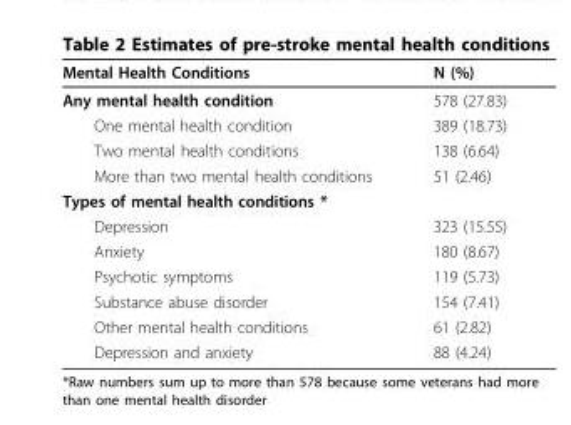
<table><thead><tr><td>Mental Health Conditions</td><td>N (%)</td></tr></thead><tbody><tr><td>Any mental health condition</td><td>578 (27.83)</td></tr><tr><td>One mental health condition</td><td>389 (18.73)</td></tr><tr><td>Two mental health conditions</td><td>138 (6.64)</td></tr><tr><td>More than two mental health conditions</td><td>51 (2.46)</td></tr><tr><td colspan="2">Types of mental health conditions *</td></tr><tr><td>Depression</td><td>323 (15.55)</td></tr><tr><td>Anxiety</td><td>180 (8.67)</td></tr><tr><td>Psychotic symptoms</td><td>119 (5.73)</td></tr><tr><td>Substance abuse disorder</td><td>154 (7.41)</td></tr><tr><td>Other mental health conditions</td><td>61 (2.82)</td></tr><tr><td>Depression and anxiety</td><td>88 (4.24)</td></tr></tbody></table>